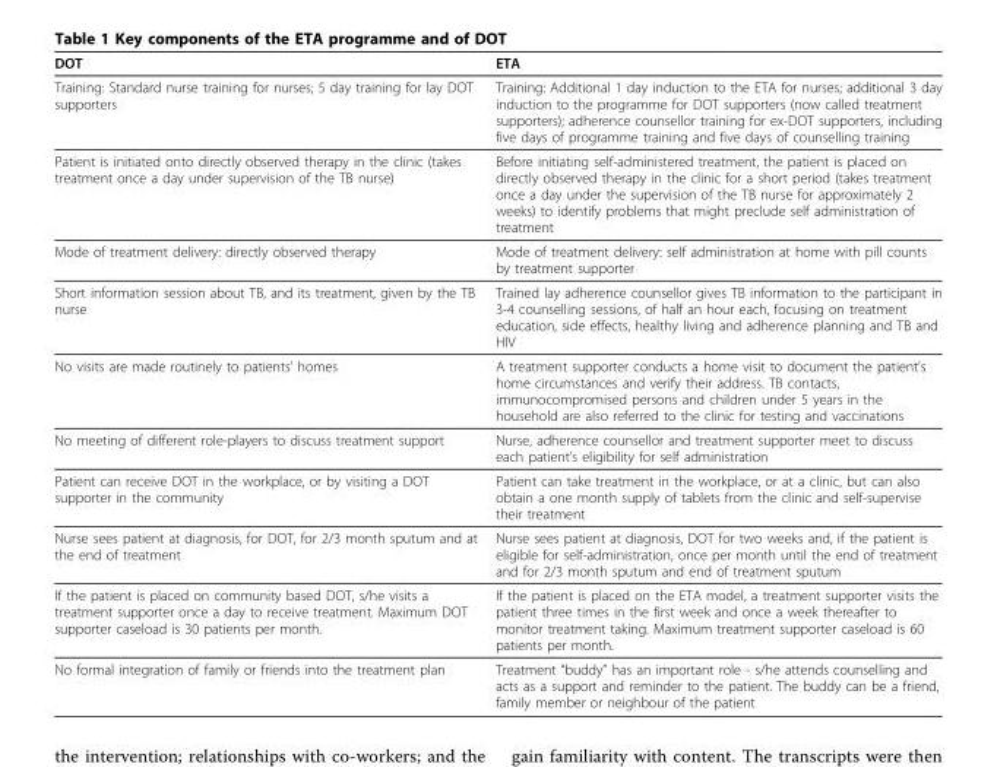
<table><thead><tr><td>DOT</td><td>ETA</td></tr></thead><tbody><tr><td>Training: Standard nurse training for nurses; 5 day training for lay DOT supporters</td><td>Training: Additional 1 day induction to the ETA for nurses; additional 3 day induction to the programme for DOT supporters (now called treatment supporters); adherence counsellor training for ex-DOT supporters, including five days of programme training and five days of counselling training</td></tr><tr><td>Patient is initiated onto directly observed therapy in the clinic (takes treatment once a day under supervision of the TB nurse)</td><td>Before initiating self-administered treatment, the patient is placed on directly observed therapy in the clinic for a short period (takes treatment once a day under the supervision of the TB nurse for approximately 2 weeks) to identify problems that might preclude self administration of treatment</td></tr><tr><td>Mode of treatment delivery: directly observed therapy</td><td>Mode of treatment delivery: self administration at home with pill counts by treatment supporter</td></tr><tr><td>Short information session about TB, and its treatment, given by the TB nurse</td><td>Trained lay adherence counsellor gives TB information to the participant in 3-4 counselling sessions, of half an hour each, focusing on treatment education, side effects, healthy living and adherence planning and TB and HIV</td></tr><tr><td>No visits are made routinely to patients’ homes</td><td>A treatment supporter conducts a home visit to document the patient’s home circumstances and verify their address. TB contacts, immunocompromised persons and children under 5 years in the household are also referred to the clinic for testing and vaccinations</td></tr><tr><td>No meeting of different role-players to discuss treatment support</td><td>Nurse, adherence counsellor and treatment supporter meet to discuss each patient’s eligibility for self administration</td></tr><tr><td>Patient can receive DOT in the workplace, or by visiting a DOT supporter in the community</td><td>Patient can take treatment in the workplace, or at a clinic, but can also obtain a one month supply of tablets from the clinic and self-supervise their treatment</td></tr><tr><td>Nurse sees patient at diagnosis, for DOT, for 2/3 month sputum and at the end of treatment</td><td>Nurse sees patient at diagnosis, DOT for two weeks and, if the patient is eligible for self-administration, once per month until the end of treatment and for 2/3 month sputum and end of treatment sputum</td></tr><tr><td>If the patient is placed on community based DOT, s/he visits a treatment supporter once a day to receive treatment. Maximum DOT supporter caseload is 30 patients per month.</td><td>If the patient is placed on the ETA model, a treatment supporter visits the patient three times in the first week and once a week thereafter to monitor treatment taking. Maximum treatment supporter caseload is 60 patients per month.</td></tr><tr><td>No formal integration of family or friends into the treatment plan</td><td>Treatment “buddy” has an important role - s/he attends counselling and acts as a support and reminder to the patient. The buddy can be a friend, family member or neighbour of the patient</td></tr></tbody></table>